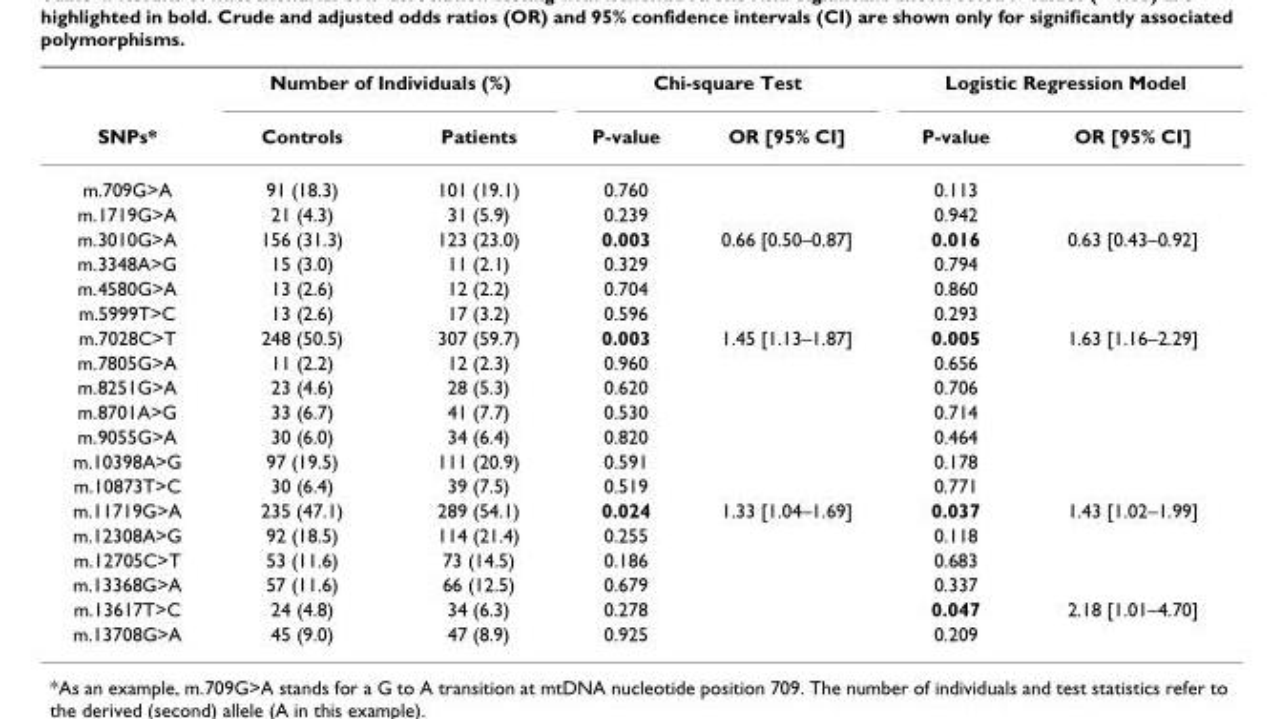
<table><thead><tr><td rowspan="2">SNPs*</td><td colspan="2">Number of Individuals (%)</td><td colspan="2">Chi-square Test</td><td colspan="2">Logistic Regression Model</td></tr><tr><td>Controls</td><td>Patients</td><td>P-value</td><td>OR [95% CI]</td><td>P-value</td><td>OR [95% CI]</td></tr></thead><tbody><tr><td>m.709G&gt;A</td><td>91 (18.3)</td><td>101 (19.1)</td><td>0.760</td><td></td><td>0.113</td><td></td></tr><tr><td>m.1719G&gt;A</td><td>21 (4.3)</td><td>31 (5.9)</td><td>0.239</td><td></td><td>0.942</td><td></td></tr><tr><td>m.3010G&gt;A</td><td>156 (31.3)</td><td>123 (23.0)</td><td>0.003</td><td>0.66 [0.50–0.87]</td><td>0.016</td><td>0.63 [0.43–0.92]</td></tr><tr><td>m.3348A&gt;G</td><td>15 (3.0)</td><td>11 (2.1)</td><td>0.329</td><td></td><td>0.794</td><td></td></tr><tr><td>m.4580G&gt;A</td><td>13 (2.6)</td><td>12 (2.2)</td><td>0.704</td><td></td><td>0.860</td><td></td></tr><tr><td>m.5999T&gt;C</td><td>13 (2.6)</td><td>17 (3.2)</td><td>0.596</td><td></td><td>0.293</td><td></td></tr><tr><td>m.7028C&gt;T</td><td>248 (50.5)</td><td>307 (59.7)</td><td>0.003</td><td>1.45 [1.13–1.87]</td><td>0.005</td><td>1.63 [1.16–2.29]</td></tr><tr><td>m.7805G&gt;A</td><td>11 (2.2)</td><td>12 (2.3)</td><td>0.960</td><td></td><td>0.656</td><td></td></tr><tr><td>m.8251G&gt;A</td><td>23 (4.6)</td><td>28 (5.3)</td><td>0.620</td><td></td><td>0.706</td><td></td></tr><tr><td>m.8701A&gt;G</td><td>33 (6.7)</td><td>41 (7.7)</td><td>0.530</td><td></td><td>0.714</td><td></td></tr><tr><td>m.9055G&gt;A</td><td>30 (6.0)</td><td>34 (6.4)</td><td>0.820</td><td></td><td>0.464</td><td></td></tr><tr><td>m.10398A&gt;G</td><td>97 (19.5)</td><td>111 (20.9)</td><td>0.591</td><td></td><td>0.178</td><td></td></tr><tr><td>m.10873T&gt;C</td><td>30 (6.4)</td><td>39 (7.5)</td><td>0.519</td><td></td><td>0.771</td><td></td></tr><tr><td>m.11719G&gt;A</td><td>235 (47.1)</td><td>289 (54.1)</td><td>0.024</td><td>1.33 [1.04–1.69]</td><td>0.037</td><td>1.43 [1.02–1.99]</td></tr><tr><td>m.12308A&gt;G</td><td>92 (18.5)</td><td>114 (21.4)</td><td>0.255</td><td></td><td>0.118</td><td></td></tr><tr><td>m.12705C&gt;T</td><td>53 (11.6)</td><td>73 (14.5)</td><td>0.186</td><td></td><td>0.683</td><td></td></tr><tr><td>m.13368G&gt;A</td><td>57 (11.6)</td><td>66 (12.5)</td><td>0.679</td><td></td><td>0.337</td><td></td></tr><tr><td>m.13617T&gt;C</td><td>24 (4.8)</td><td>34 (6.3)</td><td>0.278</td><td></td><td>0.047</td><td>2.18 [1.01–4.70]</td></tr><tr><td>m.13708G&gt;A</td><td>45 (9.0)</td><td>47 (8.9)</td><td>0.925</td><td></td><td>0.209</td><td></td></tr></tbody></table>